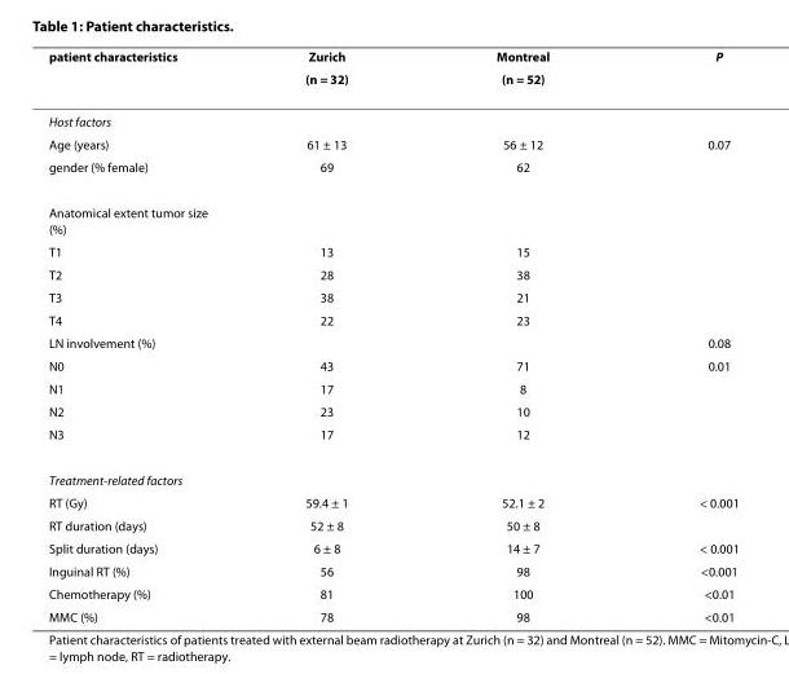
<table><thead><tr><td rowspan="2">patient characteristics</td><td rowspan="2">Zurich (n = 32)</td><td rowspan="2">Montreal (n = 52)</td><td rowspan="2">P</td></tr><tr></tr></thead><tbody><tr><td colspan="4">Host factors</td></tr><tr><td>Age (years)</td><td>61 ± 13</td><td>56 ± 12</td><td>0.07</td></tr><tr><td>gender (% female)</td><td>69</td><td>62</td><td></td></tr><tr><td colspan="4">Anatomical extent tumor size (%)</td></tr><tr><td>T1</td><td>13</td><td>15</td><td></td></tr><tr><td>T2</td><td>28</td><td>38</td><td></td></tr><tr><td>T3</td><td>38</td><td>21</td><td></td></tr><tr><td>T4</td><td>22</td><td>23</td><td></td></tr><tr><td>LN involvement (%)</td><td></td><td></td><td>0.08</td></tr><tr><td>N0</td><td>43</td><td>71</td><td>0.01</td></tr><tr><td>N1</td><td>17</td><td>8</td><td></td></tr><tr><td>N2</td><td>23</td><td>10</td><td></td></tr><tr><td>N3</td><td>17</td><td>12</td><td></td></tr><tr><td colspan="4">Treatment-related factors</td></tr><tr><td>RT (Gy)</td><td>59.4 ± 1</td><td>52.1 ± 2</td><td>&lt; 0.001</td></tr><tr><td>RT duration (days)</td><td>52 ± 8</td><td>50 ± 8</td><td></td></tr><tr><td>Split duration (days)</td><td>6 ± 8</td><td>14 ± 7</td><td>&lt; 0.001</td></tr><tr><td>Inguinal RT (%)</td><td>56</td><td>98</td><td>&lt;0.001</td></tr><tr><td>Chemotherapy (%)</td><td>81</td><td>100</td><td>&lt;0.01</td></tr><tr><td>MMC (%)</td><td>78</td><td>98</td><td>&lt;0.01</td></tr></tbody></table>